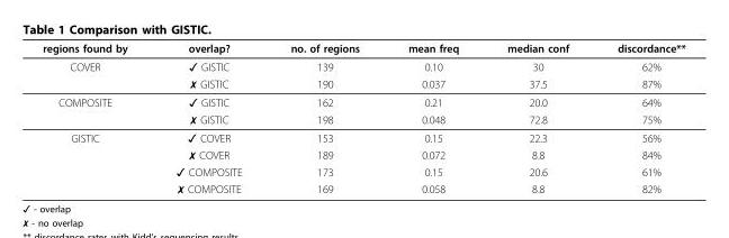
<table><thead><tr><td>regions found by</td><td>overlap?</td><td>no. of regions</td><td>mean freq</td><td>median conf</td><td>discordance**</td></tr></thead><tbody><tr><td rowspan="2">COVER</td><td>✓ GISTIC</td><td>139</td><td>0.10</td><td>30</td><td>62%</td></tr><tr><td>✗ GISTIC</td><td>190</td><td>0.037</td><td>37.5</td><td>87%</td></tr><tr><td rowspan="2">COMPOSITE</td><td>✓ GISTIC</td><td>162</td><td>0.21</td><td>20.0</td><td>64%</td></tr><tr><td>✗ GISTIC</td><td>198</td><td>0.048</td><td>72.8</td><td>75%</td></tr><tr><td rowspan="4">GISTIC</td><td>✓ COVER</td><td>153</td><td>0.15</td><td>22.3</td><td>56%</td></tr><tr><td>✗ COVER</td><td>189</td><td>0.072</td><td>8.8</td><td>84%</td></tr><tr><td>✓ COMPOSITE</td><td>173</td><td>0.15</td><td>20.6</td><td>61%</td></tr><tr><td>✗ COMPOSITE</td><td>169</td><td>0.058</td><td>8.8</td><td>82%</td></tr></tbody></table>